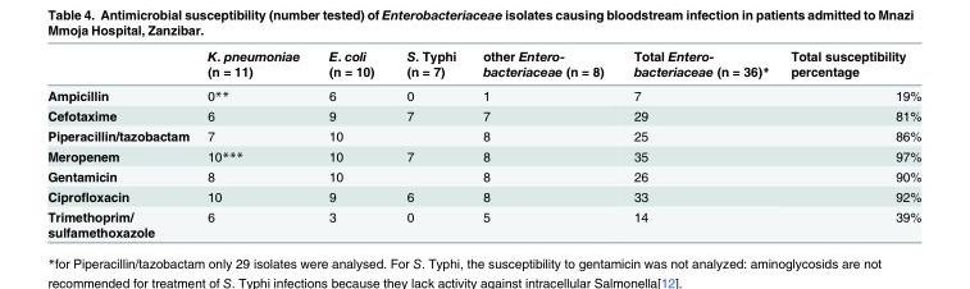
<table><thead><tr><td></td><td>K. pneumoniae (n = 11)</td><td>E. coli (n = 10)</td><td>S. Typhi (n = 7)</td><td>other Entero- bacteriaceae (n = 8)</td><td>Total Entero- bacteriaceae (n = 36)*</td><td>Total susceptibility percentage</td></tr></thead><tbody><tr><td>Ampicillin</td><td>0**</td><td>6</td><td>0</td><td>1</td><td>7</td><td>19%</td></tr><tr><td>Cefotaxime</td><td>6</td><td>9</td><td>7</td><td>7</td><td>29</td><td>81%</td></tr><tr><td>Piperacillin/tazobactam</td><td>7</td><td>10</td><td></td><td>8</td><td>25</td><td>86%</td></tr><tr><td>Meropenem</td><td>10***</td><td>10</td><td>7</td><td>8</td><td>35</td><td>97%</td></tr><tr><td>Gentamicin</td><td>8</td><td>10</td><td></td><td>8</td><td>26</td><td>90%</td></tr><tr><td>Ciprofloxacin</td><td>10</td><td>9</td><td>6</td><td>8</td><td>33</td><td>92%</td></tr><tr><td>Trimethoprim/ sulfamethoxazole</td><td>6</td><td>3</td><td>0</td><td>5</td><td>14</td><td>39%</td></tr></tbody></table>